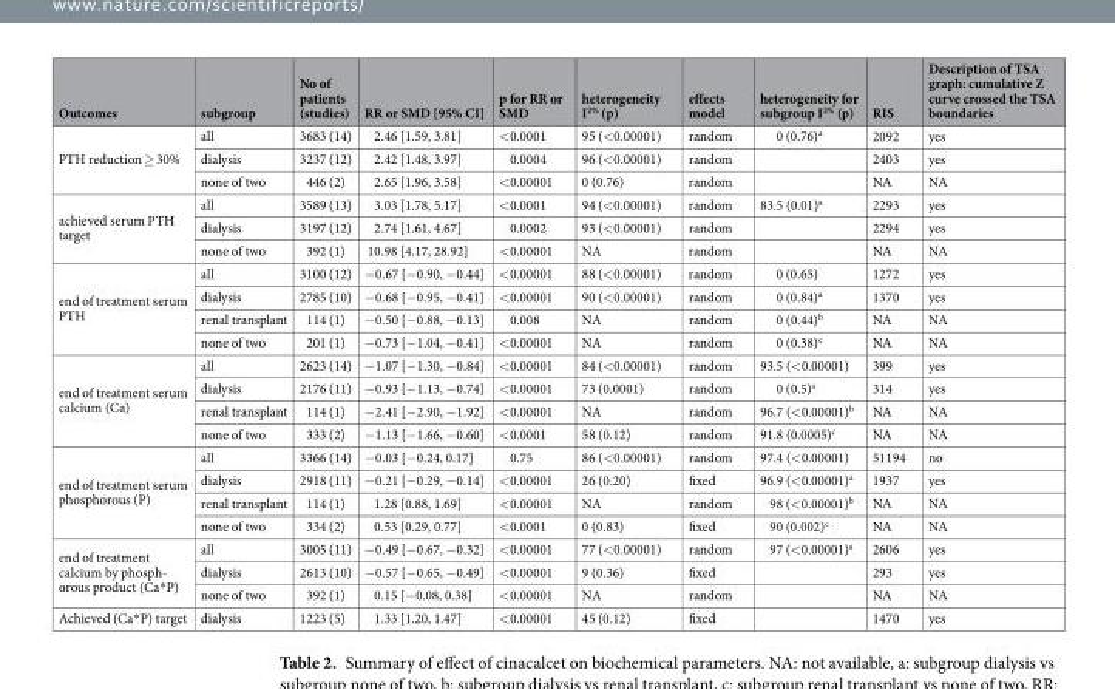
<table><thead><tr><td>Outcomes</td><td>subgroup</td><td>No of patients (studies)</td><td>RR or SMD [95% CI]</td><td>p for RR or SMD</td><td>heterogeneity I<sup>2%</sup> (p)</td><td>effects model</td><td>heterogeneity for subgroup I<sup>2%</sup> (p)</td><td>RIS</td><td>Description of TSA graph: cumulative Z curve crossed the TSA boundaries</td></tr></thead><tbody><tr><td rowspan="3">PTH reduction ≥ 30%</td><td>all</td><td>3683 (14)</td><td>2.46 [1.59, 3.81]</td><td>&lt;0.0001</td><td>95 (&lt;0.00001)</td><td>random</td><td>0 (0.76)<sup>a</sup></td><td>2092</td><td>yes</td></tr><tr><td>dialysis</td><td>3237 (12)</td><td>2.42 [1.48, 3.97]</td><td>0.0004</td><td>96 (&lt;0.00001)</td><td>random</td><td></td><td>2403</td><td>yes</td></tr><tr><td>none of two</td><td>446 (2)</td><td>2.65 [1.96, 3.58]</td><td>&lt;0.00001</td><td>0 (0.76)</td><td>random</td><td></td><td>NA</td><td>NA</td></tr><tr><td rowspan="3">achieved serum PTH target</td><td>all</td><td>3589 (13)</td><td>3.03 [1.78, 5.17]</td><td>&lt;0.0001</td><td>94 (&lt;0.00001)</td><td>random</td><td>83.5 (0.01)<sup>a</sup></td><td>2293</td><td>yes</td></tr><tr><td>dialysis</td><td>3197 (12)</td><td>2.74 [1.61, 4.67]</td><td>0.0002</td><td>93 (&lt;0.00001)</td><td>random</td><td></td><td>2294</td><td>yes</td></tr><tr><td>none of two</td><td>392 (1)</td><td>10.98 [4.17, 28.92]</td><td>&lt;0.00001</td><td>NA</td><td>random</td><td></td><td>NA</td><td>NA</td></tr><tr><td rowspan="4">end of treatment serum PTH</td><td>all</td><td>3100 (12)</td><td>−0.67 [−0.90, −0.44]</td><td>&lt;0.00001</td><td>88 (&lt;0.00001)</td><td>random</td><td>0 (0.65)</td><td>1272</td><td>yes</td></tr><tr><td>dialysis</td><td>2785 (10)</td><td>−0.68 [−0.95, −0.41]</td><td>&lt;0.00001</td><td>90 (&lt;0.00001)</td><td>random</td><td>0 (0.84)<sup>a</sup></td><td>1370</td><td>yes</td></tr><tr><td>renal transplant</td><td>114 (1)</td><td>−0.50 [−0.88, −0.13]</td><td>0.008</td><td>NA</td><td>random</td><td>0 (0.44)<sup>b</sup></td><td>NA</td><td>NA</td></tr><tr><td>none of two</td><td>201 (1)</td><td>−0.73 [−1.04, −0.41]</td><td>&lt;0.00001</td><td>NA</td><td>random</td><td>0 (0.38)<sup>c</sup></td><td>NA</td><td>NA</td></tr><tr><td rowspan="4">end of treatment serum calcium (Ca)</td><td>all</td><td>2623 (14)</td><td>−1.07 [−1.30, −0.84]</td><td>&lt;0.00001</td><td>84 (&lt;0.00001)</td><td>random</td><td>93.5 (&lt;0.00001)</td><td>399</td><td>yes</td></tr><tr><td>dialysis</td><td>2176 (11)</td><td>−0.93 [−1.13, −0.74]</td><td>&lt;0.00001</td><td>73 (0.0001)</td><td>random</td><td>0 (0.5)<sup>a</sup></td><td>314</td><td>yes</td></tr><tr><td>renal transplant</td><td>114 (1)</td><td>−2.41 [−2.90, −1.92]</td><td>&lt;0.00001</td><td>NA</td><td>random</td><td>96.7 (&lt;0.00001)<sup>b</sup></td><td>NA</td><td>NA</td></tr><tr><td>none of two</td><td>333 (2)</td><td>−1.13 [−1.66, −0.60]</td><td>&lt;0.0001</td><td>58 (0.12)</td><td>random</td><td>91.8 (0.0005)<sup>c</sup></td><td>NA</td><td>NA</td></tr><tr><td rowspan="4">end of treatment serum phosphorous (P)</td><td>all</td><td>3366 (14)</td><td>−0.03 [−0.24, 0.17]</td><td>0.75</td><td>86 (&lt;0.00001)</td><td>random</td><td>97.4 (&lt;0.00001)</td><td>51194</td><td>no</td></tr><tr><td>dialysis</td><td>2918 (11)</td><td>−0.21 [−0.29, −0.14]</td><td>&lt;0.00001</td><td>26 (0.20)</td><td>fixed</td><td>96.9 (&lt;0.00001)<sup>a</sup></td><td>1937</td><td>yes</td></tr><tr><td>renal transplant</td><td>114 (1)</td><td>1.28 [0.88, 1.69]</td><td>&lt;0.00001</td><td>NA</td><td>random</td><td>98 (&lt;0.00001)<sup>b</sup></td><td>NA</td><td>NA</td></tr><tr><td>none of two</td><td>334 (2)</td><td>0.53 [0.29, 0.77]</td><td>&lt;0.0001</td><td>0 (0.83)</td><td>fixed</td><td>90 (0.002)<sup>c</sup></td><td>NA</td><td>NA</td></tr><tr><td rowspan="3">end of treatment calcium by phosph- orous product (Ca*P)</td><td>all</td><td>3005 (11)</td><td>−0.49 [−0.67, −0.32]</td><td>&lt;0.00001</td><td>77 (&lt;0.00001)</td><td>random</td><td>97 (&lt;0.00001)<sup>a</sup></td><td>2606</td><td>yes</td></tr><tr><td>dialysis</td><td>2613 (10)</td><td>−0.57 [−0.65, −0.49]</td><td>&lt;0.00001</td><td>9 (0.36)</td><td>fixed</td><td></td><td>293</td><td>yes</td></tr><tr><td>none of two</td><td>392 (1)</td><td>0.15 [−0.08, 0.38]</td><td>&lt;0.00001</td><td>NA</td><td>random</td><td></td><td>NA</td><td>NA</td></tr><tr><td>Achieved (Ca*P) target</td><td>dialysis</td><td>1223 (5)</td><td>1.33 [1.20, 1.47]</td><td>&lt;0.00001</td><td>45 (0.12)</td><td>fixed</td><td></td><td>1470</td><td>yes</td></tr></tbody></table>